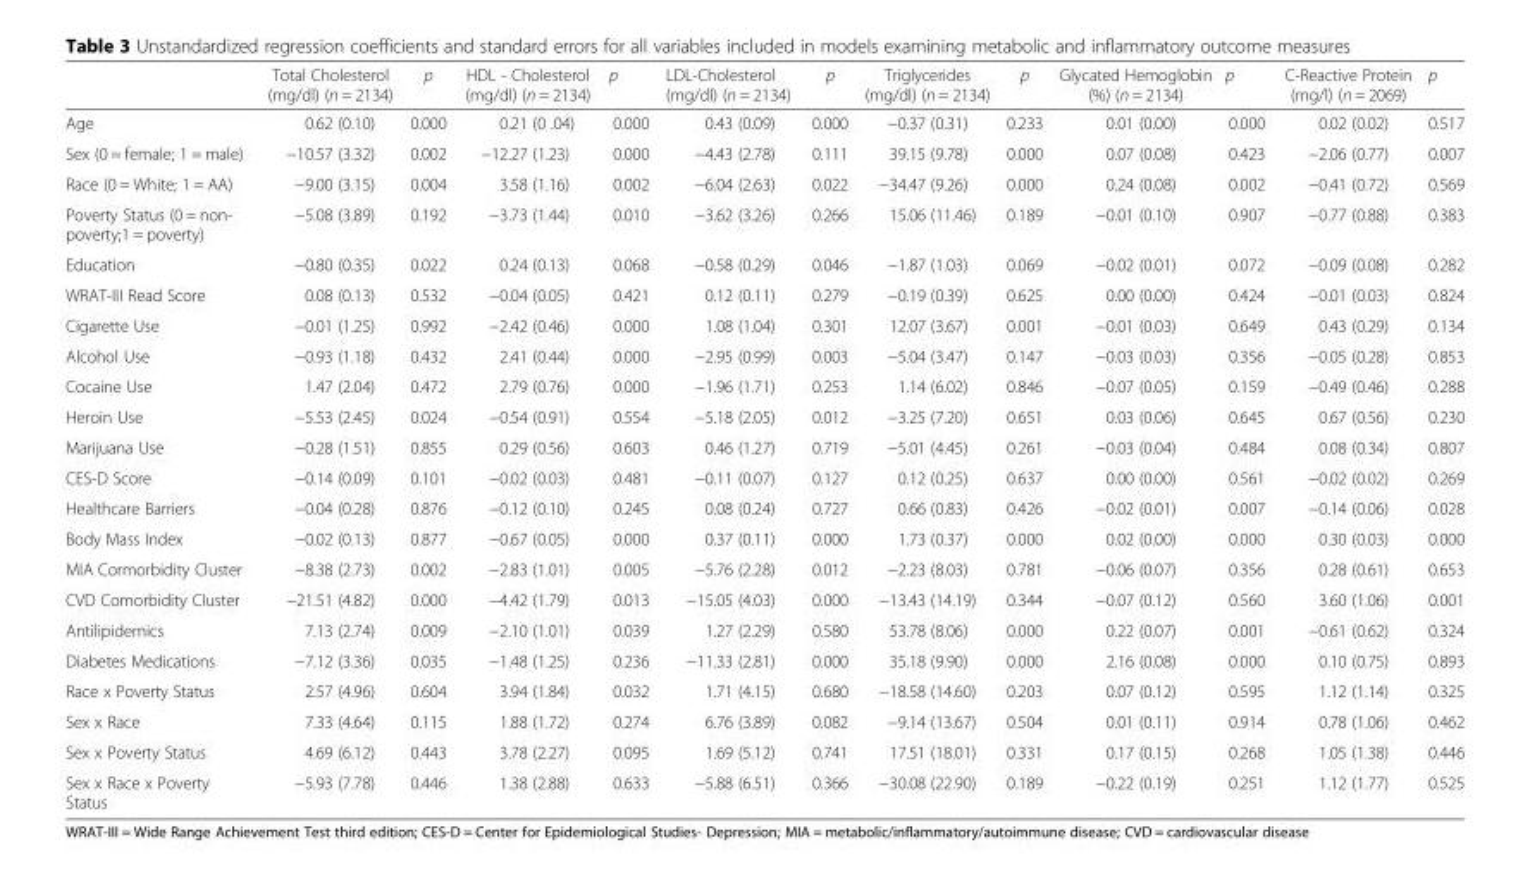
<table><thead><tr><td></td><td>Total Cholesterol (mg/dl) (n = 2134)</td><td>p</td><td>HDL - Cholesterol (mg/dl) (n = 2134)</td><td>p</td><td>LDL-Cholesterol (mg/dl) (n = 2134)</td><td>p</td><td>Triglycerides (mg/dl) (n = 2134)</td><td>p</td><td>Glycated Hemoglobin (%) (n = 2134)</td><td>p</td><td>C-Reactive Protein (mg/l) (n = 2069)</td><td>p</td></tr></thead><tbody><tr><td>Age</td><td>0.62 (0.10)</td><td>0.000</td><td>0.21 (0 .04)</td><td>0.000</td><td>0.43 (0.09)</td><td>0.000</td><td>−0.37 (0.31)</td><td>0.233</td><td>0.01 (0.00)</td><td>0.000</td><td>0.02 (0.02)</td><td>0.517</td></tr><tr><td>Sex (0 = female; 1 = male)</td><td>−10.57 (3.32)</td><td>0.002</td><td>−12.27 (1.23)</td><td>0.000</td><td>−4.43 (2.78)</td><td>0.111</td><td>39.15 (9.78)</td><td>0.000</td><td>0.07 (0.08)</td><td>0.423</td><td>−2.06 (0.77)</td><td>0.007</td></tr><tr><td>Race (0 = White; 1 = AA)</td><td>−9.00 (3.15)</td><td>0.004</td><td>3.58 (1.16)</td><td>0.002</td><td>−6.04 (2.63)</td><td>0.022</td><td>−34.47 (9.26)</td><td>0.000</td><td>0.24 (0.08)</td><td>0.002</td><td>−0.41 (0.72)</td><td>0.569</td></tr><tr><td>Poverty Status (0 = non- poverty;1 = poverty)</td><td>−5.08 (3.89)</td><td>0.192</td><td>−3.73 (1.44)</td><td>0.010</td><td>−3.62 (3.26)</td><td>0.266</td><td>15.06 (11.46)</td><td>0.189</td><td>−0.01 (0.10)</td><td>0.907</td><td>−0.77 (0.88)</td><td>0.383</td></tr><tr><td>Education</td><td>−0.80 (0.35)</td><td>0.022</td><td>0.24 (0.13)</td><td>0.068</td><td>−0.58 (0.29)</td><td>0.046</td><td>−1.87 (1.03)</td><td>0.069</td><td>−0.02 (0.01)</td><td>0.072</td><td>−0.09 (0.08)</td><td>0.282</td></tr><tr><td>WRAT-III Read Score</td><td>0.08 (0.13)</td><td>0.532</td><td>−0.04 (0.05)</td><td>0.421</td><td>0.12 (0.11)</td><td>0.279</td><td>−0.19 (0.39)</td><td>0.625</td><td>0.00 (0.00)</td><td>0.424</td><td>−0.01 (0.03)</td><td>0.824</td></tr><tr><td>Cigarette Use</td><td>−0.01 (1.25)</td><td>0.992</td><td>−2.42 (0.46)</td><td>0.000</td><td>1.08 (1.04)</td><td>0.301</td><td>12.07 (3.67)</td><td>0.001</td><td>−0.01 (0.03)</td><td>0.649</td><td>0.43 (0.29)</td><td>0.134</td></tr><tr><td>Alcohol Use</td><td>−0.93 (1.18)</td><td>0.432</td><td>2.41 (0.44)</td><td>0.000</td><td>−2.95 (0.99)</td><td>0.003</td><td>−5.04 (3.47)</td><td>0.147</td><td>−0.03 (0.03)</td><td>0.356</td><td>−0.05 (0.28)</td><td>0.853</td></tr><tr><td>Cocaine Use</td><td>1.47 (2.04)</td><td>0.472</td><td>2.79 (0.76)</td><td>0.000</td><td>−1.96 (1.71)</td><td>0.253</td><td>1.14 (6.02)</td><td>0.846</td><td>−0.07 (0.05)</td><td>0.159</td><td>−0.49 (0.46)</td><td>0.288</td></tr><tr><td>Heroin Use</td><td>−5.53 (2.45)</td><td>0.024</td><td>−0.54 (0.91)</td><td>0.554</td><td>−5.18 (2.05)</td><td>0.012</td><td>−3.25 (7.20)</td><td>0.651</td><td>0.03 (0.06)</td><td>0.645</td><td>0.67 (0.56)</td><td>0.230</td></tr><tr><td>Marijuana Use</td><td>−0.28 (1.51)</td><td>0.855</td><td>0.29 (0.56)</td><td>0.603</td><td>0.46 (1.27)</td><td>0.719</td><td>−5.01 (4.45)</td><td>0.261</td><td>−0.03 (0.04)</td><td>0.484</td><td>0.08 (0.34)</td><td>0.807</td></tr><tr><td>CES-D Score</td><td>−0.14 (0.09)</td><td>0.101</td><td>−0.02 (0.03)</td><td>0.481</td><td>−0.11 (0.07)</td><td>0.127</td><td>0.12 (0.25)</td><td>0.637</td><td>0.00 (0.00)</td><td>0.561</td><td>−0.02 (0.02)</td><td>0.269</td></tr><tr><td>Healthcare Barriers</td><td>−0.04 (0.28)</td><td>0.876</td><td>−0.12 (0.10)</td><td>0.245</td><td>0.08 (0.24)</td><td>0.727</td><td>0.66 (0.83)</td><td>0.426</td><td>−0.02 (0.01)</td><td>0.007</td><td>−0.14 (0.06)</td><td>0.028</td></tr><tr><td>Body Mass Index</td><td>−0.02 (0.13)</td><td>0.877</td><td>−0.67 (0.05)</td><td>0.000</td><td>0.37 (0.11)</td><td>0.000</td><td>1.73 (0.37)</td><td>0.000</td><td>0.02 (0.00)</td><td>0.000</td><td>0.30 (0.03)</td><td>0.000</td></tr><tr><td>MIA Cormorbidity Cluster</td><td>−8.38 (2.73)</td><td>0.002</td><td>−2.83 (1.01)</td><td>0.005</td><td>−5.76 (2.28)</td><td>0.012</td><td>−2.23 (8.03)</td><td>0.781</td><td>−0.06 (0.07)</td><td>0.356</td><td>0.28 (0.61)</td><td>0.653</td></tr><tr><td>CVD Comorbidity Cluster</td><td>−21.51 (4.82)</td><td>0.000</td><td>−4.42 (1.79)</td><td>0.013</td><td>−15.05 (4.03)</td><td>0.000</td><td>−13.43 (14.19)</td><td>0.344</td><td>−0.07 (0.12)</td><td>0.560</td><td>3.60 (1.06)</td><td>0.001</td></tr><tr><td>Antilipidemics</td><td>7.13 (2.74)</td><td>0.009</td><td>−2.10 (1.01)</td><td>0.039</td><td>1.27 (2.29)</td><td>0.580</td><td>53.78 (8.06)</td><td>0.000</td><td>0.22 (0.07)</td><td>0.001</td><td>−0.61 (0.62)</td><td>0.324</td></tr><tr><td>Diabetes Medications</td><td>−7.12 (3.36)</td><td>0.035</td><td>−1.48 (1.25)</td><td>0.236</td><td>−11.33 (2.81)</td><td>0.000</td><td>35.18 (9.90)</td><td>0.000</td><td>2.16 (0.08)</td><td>0.000</td><td>0.10 (0.75)</td><td>0.893</td></tr><tr><td>Race x Poverty Status</td><td>2.57 (4.96)</td><td>0.604</td><td>3.94 (1.84)</td><td>0.032</td><td>1.71 (4.15)</td><td>0.680</td><td>−18.58 (14.60)</td><td>0.203</td><td>0.07 (0.12)</td><td>0.595</td><td>1.12 (1.14)</td><td>0.325</td></tr><tr><td>Sex x Race</td><td>7.33 (4.64)</td><td>0.115</td><td>1.88 (1.72)</td><td>0.274</td><td>6.76 (3.89)</td><td>0.082</td><td>−9.14 (13.67)</td><td>0.504</td><td>0.01 (0.11)</td><td>0.914</td><td>0.78 (1.06)</td><td>0.462</td></tr><tr><td>Sex x Poverty Status</td><td>4.69 (6.12)</td><td>0.443</td><td>3.78 (2.27)</td><td>0.095</td><td>1.69 (5.12)</td><td>0.741</td><td>17.51 (18.01)</td><td>0.331</td><td>0.17 (0.15)</td><td>0.268</td><td>1.05 (1.38)</td><td>0.446</td></tr><tr><td>Sex x Race x Poverty Status</td><td>−5.93 (7.78)</td><td>0.446</td><td>1.38 (2.88)</td><td>0.633</td><td>−5.88 (6.51)</td><td>0.366</td><td>−30.08 (22.90)</td><td>0.189</td><td>−0.22 (0.19)</td><td>0.251</td><td>1.12 (1.77)</td><td>0.525</td></tr></tbody></table>